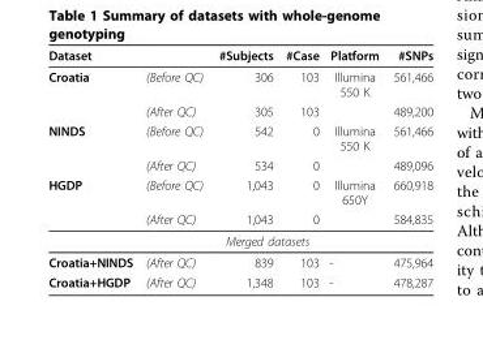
<table><thead><tr><td>Dataset</td><td></td><td>#Subjects</td><td>#Case</td><td>Platform</td><td>#SNPs</td></tr></thead><tbody><tr><td rowspan="2">Croatia</td><td>(Before QC)</td><td>306</td><td>103</td><td>Illumina 550 K</td><td>561,466</td></tr><tr><td>(After QC)</td><td>305</td><td>103</td><td></td><td>489,200</td></tr><tr><td rowspan="2">NINDS</td><td>(Before QC)</td><td>542</td><td>0</td><td>Illumina 550 K</td><td>561,466</td></tr><tr><td>(After QC)</td><td>534</td><td>0</td><td></td><td>489,096</td></tr><tr><td rowspan="3">HGDP</td><td>(Before QC)</td><td>1,043</td><td>0</td><td>Illumina 650Y</td><td>660,918</td></tr><tr><td>(After QC)</td><td>1,043</td><td>0</td><td></td><td>584,835</td></tr><tr><td></td><td colspan="2">Merged datasets</td><td></td><td></td></tr><tr><td>Croatia+NINDS</td><td>(After QC)</td><td>839</td><td>103</td><td>-</td><td>475,964</td></tr><tr><td>Croatia+HGDP</td><td>(After QC)</td><td>1,348</td><td>103</td><td>-</td><td>478,287</td></tr></tbody></table>